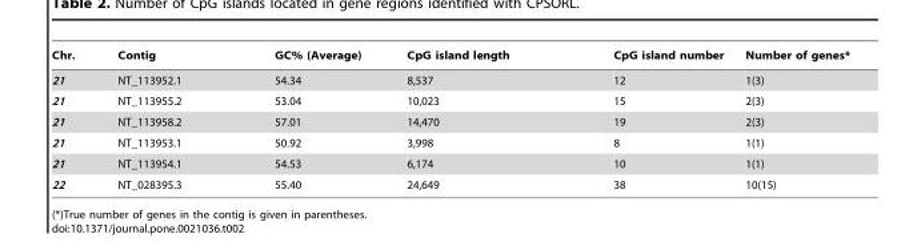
<table><thead><tr><td>Chr.</td><td>Contig</td><td>GC% (Average)</td><td>CpG island length</td><td>CpG island number</td><td>Number of genes*</td></tr></thead><tbody><tr><td>21</td><td>NT_113952.1</td><td>54.34</td><td>8,537</td><td>12</td><td>1(3)</td></tr><tr><td>21</td><td>NT_113955.2</td><td>53.04</td><td>10,023</td><td>15</td><td>2(3)</td></tr><tr><td>21</td><td>NT_113958.2</td><td>57.01</td><td>14,470</td><td>19</td><td>2(3)</td></tr><tr><td>21</td><td>NT_113953.1</td><td>50.92</td><td>3,998</td><td>8</td><td>1(1)</td></tr><tr><td>21</td><td>NT_113954.1</td><td>54.53</td><td>6,174</td><td>10</td><td>1(1)</td></tr><tr><td>22</td><td>NT_028395.3</td><td>55.40</td><td>24,649</td><td>38</td><td>10(15)</td></tr></tbody></table>